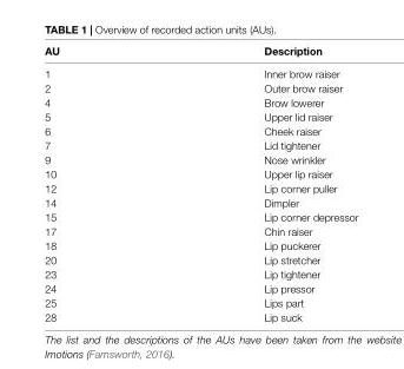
<table><thead><tr><td>AU</td><td>Description</td></tr></thead><tbody><tr><td>1</td><td>Inner brow raiser</td></tr><tr><td>2</td><td>Outer brow raiser</td></tr><tr><td>4</td><td>Brow lowerer</td></tr><tr><td>5</td><td>Upper lid raiser</td></tr><tr><td>6</td><td>Cheek raiser</td></tr><tr><td>7</td><td>Lid tightener</td></tr><tr><td>9</td><td>Nose wrinkler</td></tr><tr><td>10</td><td>Upper lip raiser</td></tr><tr><td>12</td><td>Lip corner puller</td></tr><tr><td>14</td><td>Dimpler</td></tr><tr><td>15</td><td>Lip corner depressor</td></tr><tr><td>17</td><td>Chin raiser</td></tr><tr><td>18</td><td>Lip puckerer</td></tr><tr><td>20</td><td>Lip stretcher</td></tr><tr><td>23</td><td>Lip tightener</td></tr><tr><td>24</td><td>Lip pressor</td></tr><tr><td>25</td><td>Lips part</td></tr><tr><td>28</td><td>Lip suck</td></tr></tbody></table>